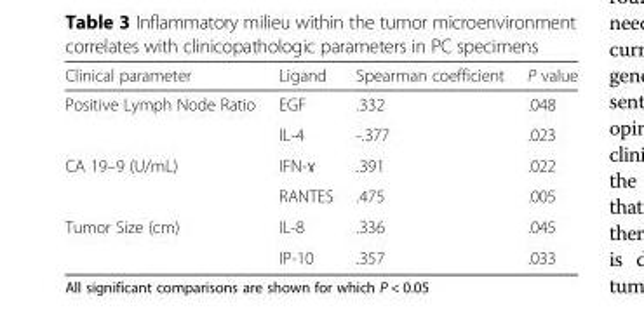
<table><thead><tr><td>Clinical parameter</td><td>Ligand</td><td>Spearman coefficient</td><td>P value</td></tr></thead><tbody><tr><td rowspan="2">Positive Lymph Node Ratio</td><td>EGF</td><td>.332</td><td>.048</td></tr><tr><td>IL-4</td><td>-.377</td><td>.023</td></tr><tr><td rowspan="2">CA 19–9 (U/mL)</td><td>IFN-ɤ</td><td>.391</td><td>.022</td></tr><tr><td>RANTES</td><td>.475</td><td>.005</td></tr><tr><td rowspan="2">Tumor Size (cm)</td><td>IL-8</td><td>.336</td><td>.045</td></tr><tr><td>IP-10</td><td>.357</td><td>.033</td></tr></tbody></table>